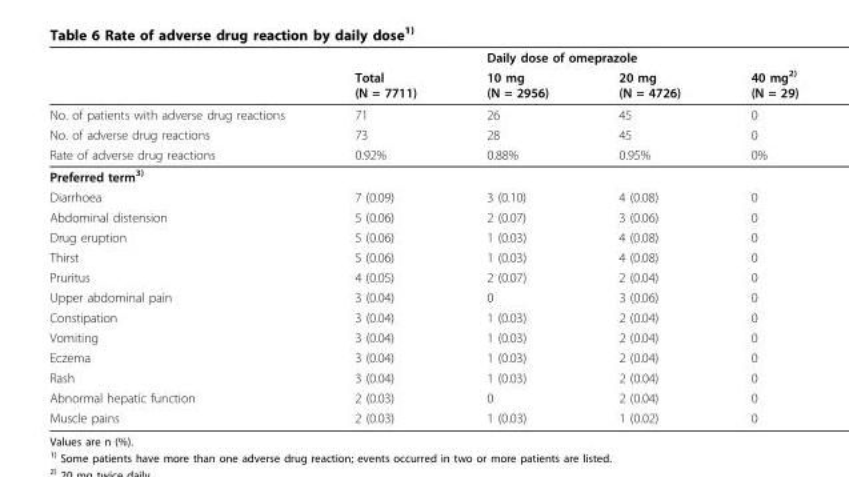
<table><thead><tr><td rowspan="2"></td><td rowspan="2">Total (N = 7711)</td><td colspan="3">Daily dose of omeprazole</td></tr><tr><td>10 mg (N = 2956)</td><td>20 mg (N = 4726)</td><td>40 mg<sup>2)</sup> (N = 29)</td></tr></thead><tbody><tr><td>No. of patients with adverse drug reactions</td><td>71</td><td>26</td><td>45</td><td>0</td></tr><tr><td>No. of adverse drug reactions</td><td>73</td><td>28</td><td>45</td><td>0</td></tr><tr><td>Rate of adverse drug reactions</td><td>0.92%</td><td>0.88%</td><td>0.95%</td><td>0%</td></tr><tr><td colspan="5">Preferred term<sup>3)</sup></td></tr><tr><td>Diarrhoea</td><td>7 (0.09)</td><td>3 (0.10)</td><td>4 (0.08)</td><td>0</td></tr><tr><td>Abdominal distension</td><td>5 (0.06)</td><td>2 (0.07)</td><td>3 (0.06)</td><td>0</td></tr><tr><td>Drug eruption</td><td>5 (0.06)</td><td>1 (0.03)</td><td>4 (0.08)</td><td>0</td></tr><tr><td>Thirst</td><td>5 (0.06)</td><td>1 (0.03)</td><td>4 (0.08)</td><td>0</td></tr><tr><td>Pruritus</td><td>4 (0.05)</td><td>2 (0.07)</td><td>2 (0.04)</td><td>0</td></tr><tr><td>Upper abdominal pain</td><td>3 (0.04)</td><td>0</td><td>3 (0.06)</td><td>0</td></tr><tr><td>Constipation</td><td>3 (0.04)</td><td>1 (0.03)</td><td>2 (0.04)</td><td>0</td></tr><tr><td>Vomiting</td><td>3 (0.04)</td><td>1 (0.03)</td><td>2 (0.04)</td><td>0</td></tr><tr><td>Eczema</td><td>3 (0.04)</td><td>1 (0.03)</td><td>2 (0.04)</td><td>0</td></tr><tr><td>Rash</td><td>3 (0.04)</td><td>1 (0.03)</td><td>2 (0.04)</td><td>0</td></tr><tr><td>Abnormal hepatic function</td><td>2 (0.03)</td><td>0</td><td>2 (0.04)</td><td>0</td></tr><tr><td>Muscle pains</td><td>2 (0.03)</td><td>1 (0.03)</td><td>1 (0.02)</td><td>0</td></tr></tbody></table>